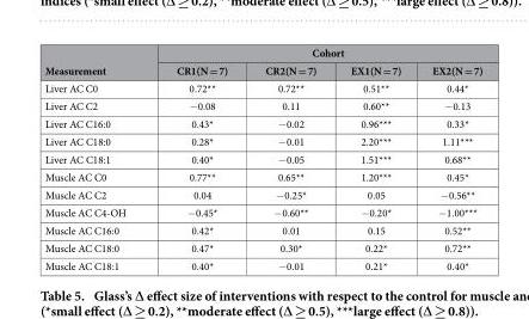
<table><thead><tr><td rowspan="2">Measurement</td><td colspan="4">Cohort</td></tr><tr><td>CR1(N = 7)</td><td>CR2(N = 7)</td><td>EX1(N = 7)</td><td>EX2(N = 7)</td></tr></thead><tbody><tr><td>Liver AC C0</td><td>0.72**</td><td>0.72**</td><td>0.51**</td><td>0.44*</td></tr><tr><td>Liver AC C2</td><td>− 0.08</td><td>0.11</td><td>0.60**</td><td>− 0.13</td></tr><tr><td>Liver AC C16:0</td><td>0.43*</td><td>− 0.02</td><td>0.96***</td><td>0.33*</td></tr><tr><td>Liver AC C18:0</td><td>0.28*</td><td>− 0.01</td><td>2.20***</td><td>1.11***</td></tr><tr><td>Liver AC C18:1</td><td>0.40*</td><td>− 0.05</td><td>1.51***</td><td>0.68**</td></tr><tr><td>Muscle AC C0</td><td>0.77**</td><td>0.65**</td><td>1.20***</td><td>0.45*</td></tr><tr><td>Muscle AC C2</td><td>0.04</td><td>− 0.25*</td><td>0.05</td><td>− 0.56**</td></tr><tr><td>Muscle AC C4-OH</td><td>− 0.45*</td><td>− 0.60**</td><td>− 0.20*</td><td>− 1.00***</td></tr><tr><td>Muscle AC C16:0</td><td>0.42*</td><td>0.01</td><td>0.15</td><td>0.52**</td></tr><tr><td>Muscle AC C18:0</td><td>0.47*</td><td>0.30*</td><td>0.22*</td><td>0.72**</td></tr><tr><td>Muscle AC C18:1</td><td>0.40*</td><td>− 0.01</td><td>0.21*</td><td>0.40*</td></tr></tbody></table>